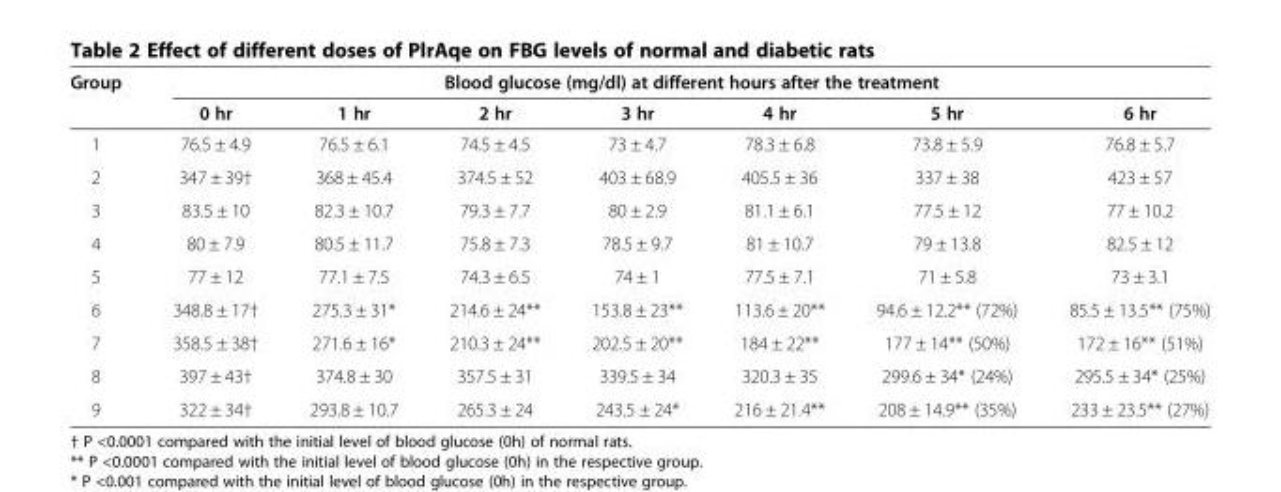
<table><thead><tr><td rowspan="2">Group</td><td colspan="7">Blood glucose (mg/dl) at different hours after the treatment</td></tr><tr><td>0 hr</td><td>1 hr</td><td>2 hr</td><td>3 hr</td><td>4 hr</td><td>5 hr</td><td>6 hr</td></tr></thead><tbody><tr><td>1</td><td>76.5 ± 4.9</td><td>76.5 ± 6.1</td><td>74.5 ± 4.5</td><td>73 ± 4.7</td><td>78.3 ± 6.8</td><td>73.8 ± 5.9</td><td>76.8 ± 5.7</td></tr><tr><td>2</td><td>347 ± 39†</td><td>368 ± 45.4</td><td>374.5 ± 52</td><td>403 ± 68.9</td><td>405.5 ± 36</td><td>337 ± 38</td><td>423 ± 57</td></tr><tr><td>3</td><td>83.5 ± 10</td><td>82.3 ± 10.7</td><td>79.3 ± 7.7</td><td>80 ± 2.9</td><td>81.1 ± 6.1</td><td>77.5 ± 12</td><td>77 ± 10.2</td></tr><tr><td>4</td><td>80 ± 7.9</td><td>80.5 ± 11.7</td><td>75.8 ± 7.3</td><td>78.5 ± 9.7</td><td>81 ± 10.7</td><td>79 ± 13.8</td><td>82.5 ± 12</td></tr><tr><td>5</td><td>77 ± 12</td><td>77.1 ± 7.5</td><td>74.3 ± 6.5</td><td>74 ± 1</td><td>77.5 ± 7.1</td><td>71 ± 5.8</td><td>73 ± 3.1</td></tr><tr><td>6</td><td>348.8 ± 17†</td><td>275.3 ± 31*</td><td>214.6 ± 24**</td><td>153.8 ± 23**</td><td>113.6 ± 20**</td><td>94.6 ± 12.2** (72%)</td><td>85.5 ± 13.5** (75%)</td></tr><tr><td>7</td><td>358.5 ± 38†</td><td>271.6 ± 16*</td><td>210.3 ± 24**</td><td>202.5 ± 20**</td><td>184 ± 22**</td><td>177 ± 14** (50%)</td><td>172 ± 16** (51%)</td></tr><tr><td>8</td><td>397 ± 43†</td><td>374.8 ± 30</td><td>357.5 ± 31</td><td>339.5 ± 34</td><td>320.3 ± 35</td><td>299.6 ± 34* (24%)</td><td>295.5 ± 34* (25%)</td></tr><tr><td>9</td><td>322 ± 34†</td><td>293.8 ± 10.7</td><td>265.3 ± 24</td><td>243.5 ± 24*</td><td>216 ± 21.4**</td><td>208 ± 14.9** (35%)</td><td>233 ± 23.5** (27%)</td></tr></tbody></table>